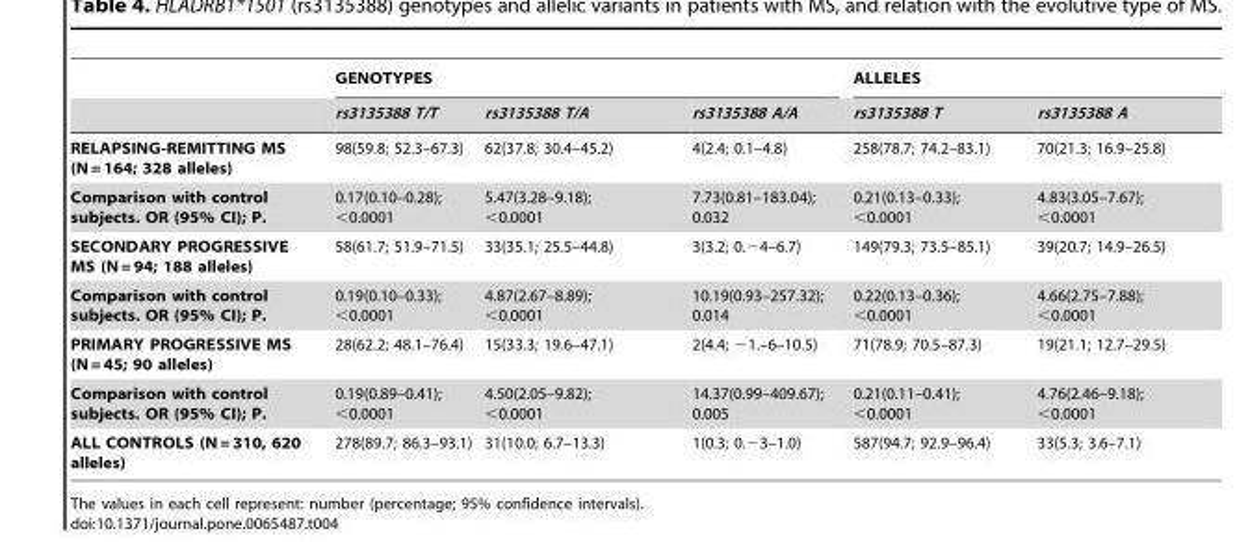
<table><thead><tr><td rowspan="2"></td><td colspan="3">GENOTYPES</td><td colspan="2">ALLELES</td></tr><tr><td>rs3135388 T/T</td><td>rs3135388 T/A</td><td>rs3135388 A/A</td><td>rs3135388 T</td><td>rs3135388 A</td></tr></thead><tbody><tr><td>RELAPSING-REMITTING MS (N = 164; 328 alleles)</td><td>98(59.8; 52.3–67.3)</td><td>62(37.8; 30.4–45.2)</td><td>4(2.4; 0.1–4.8)</td><td>258(78.7; 74.2–83.1)</td><td>70(21.3; 16.9–25.8)</td></tr><tr><td>Comparison with control subjects. OR (95% CI); P.</td><td>0.17(0.10–0.28); &lt;0.0001</td><td>5.47(3.28–9.18); &lt;0.0001</td><td>7.73(0.81–183.04); 0.032</td><td>0.21(0.13–0.33); &lt;0.0001</td><td>4.83(3.05–7.67); &lt;0.0001</td></tr><tr><td>SECONDARY PROGRESSIVE MS (N = 94; 188 alleles)</td><td>58(61.7; 51.9–71.5)</td><td>33(35.1; 25.5–44.8)</td><td>3(3.2; 0.−4–6.7)</td><td>149(79.3; 73.5–85.1)</td><td>39(20.7; 14.9–26.5)</td></tr><tr><td>Comparison with control subjects. OR (95% CI); P.</td><td>0.19(0.10–0.33); &lt;0.0001</td><td>4.87(2.67–8.89); &lt;0.0001</td><td>10.19(0.93–257.32); 0.014</td><td>0.22(0.13–0.36); &lt;0.0001</td><td>4.66(2.75–7.88); &lt;0.0001</td></tr><tr><td>PRIMARY PROGRESSIVE MS (N = 45; 90 alleles)</td><td>28(62.2; 48.1–76.4)</td><td>15(33.3; 19.6–47.1)</td><td>2(4.4; −1.–6–10.5)</td><td>71(78.9; 70.5–87.3)</td><td>19(21.1; 12.7–29.5)</td></tr><tr><td>Comparison with control subjects. OR (95% CI); P.</td><td>0.19(0.89–0.41); &lt;0.0001</td><td>4.50(2.05–9.82); &lt;0.0001</td><td>14.37(0.99–409.67); 0.005</td><td>0.21(0.11–0.41); &lt;0.0001</td><td>4.76(2.46–9.18); &lt;0.0001</td></tr><tr><td>ALL CONTROLS (N = 310, 620 alleles)</td><td>278(89.7; 86.3–93.1)</td><td>31(10.0; 6.7–13.3)</td><td>1(0.3; 0.−3–1.0)</td><td>587(94.7; 92.9–96.4)</td><td>33(5.3; 3.6–7.1)</td></tr></tbody></table>